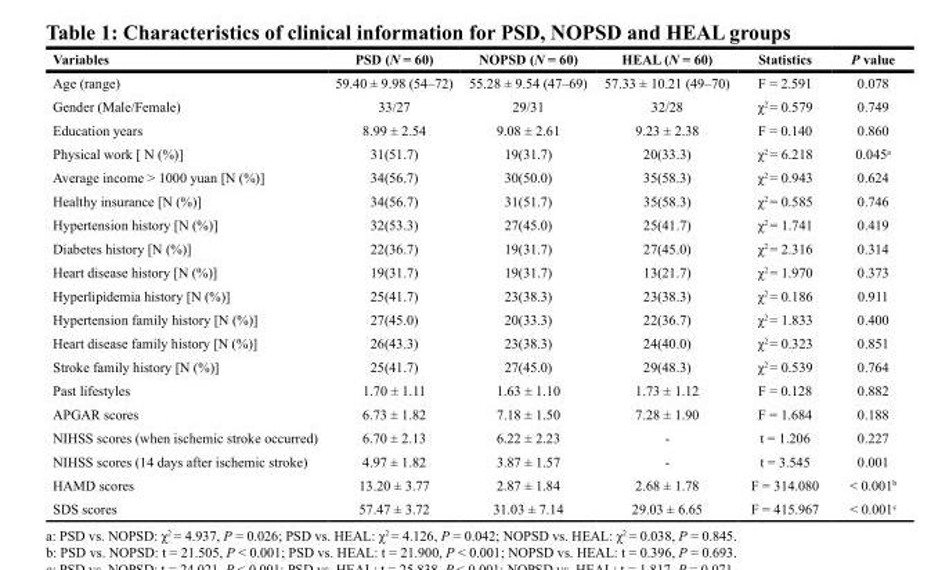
<table><thead><tr><td>Variables</td><td>PSD (N = 60)</td><td>NOPSD (N = 60)</td><td>HEAL (N = 60)</td><td>Statistics</td><td>P value</td></tr></thead><tbody><tr><td>Age (range)</td><td>59.40 ± 9.98 (54–72)</td><td>55.28 ± 9.54 (47–69)</td><td>57.33 ± 10.21 (49–70)</td><td>F = 2.591</td><td>0.078</td></tr><tr><td>Gender (Male/Female)</td><td>33/27</td><td>29/31</td><td>32/28</td><td>χ<sup>2</sup> = 0.579</td><td>0.749</td></tr><tr><td>Education years</td><td>8.99 ± 2.54</td><td>9.08 ± 2.61</td><td>9.23 ± 2.38</td><td>F = 0.140</td><td>0.860</td></tr><tr><td>Physical work [ N (%)]</td><td>31(51.7)</td><td>19(31.7)</td><td>20(33.3)</td><td>χ<sup>2</sup> = 6.218</td><td>0.045<sup>a</sup></td></tr><tr><td>Average income &gt; 1000 yuan [N (%)]</td><td>34(56.7)</td><td>30(50.0)</td><td>35(58.3)</td><td>χ<sup>2</sup> = 0.943</td><td>0.624</td></tr><tr><td>Healthy insurance [N (%)]</td><td>34(56.7)</td><td>31(51.7)</td><td>35(58.3)</td><td>χ<sup>2</sup> = 0.585</td><td>0.746</td></tr><tr><td>Hypertension history [N (%)]</td><td>32(53.3)</td><td>27(45.0)</td><td>25(41.7)</td><td>χ<sup>2</sup> = 1.741</td><td>0.419</td></tr><tr><td>Diabetes history [N (%)]</td><td>22(36.7)</td><td>19(31.7)</td><td>27(45.0)</td><td>χ<sup>2</sup> = 2.316</td><td>0.314</td></tr><tr><td>Heart disease history [N (%)]</td><td>19(31.7)</td><td>19(31.7)</td><td>13(21.7)</td><td>χ<sup>2</sup> = 1.970</td><td>0.373</td></tr><tr><td>Hyperlipidemia history [N (%)]</td><td>25(41.7)</td><td>23(38.3)</td><td>23(38.3)</td><td>χ<sup>2</sup> = 0.186</td><td>0.911</td></tr><tr><td>Hypertension family history [N (%)]</td><td>27(45.0)</td><td>20(33.3)</td><td>22(36.7)</td><td>χ<sup>2</sup> = 1.833</td><td>0.400</td></tr><tr><td>Heart disease family history [N (%)]</td><td>26(43.3)</td><td>23(38.3)</td><td>24(40.0)</td><td>χ<sup>2</sup> = 0.323</td><td>0.851</td></tr><tr><td>Stroke family history [N (%)]</td><td>25(41.7)</td><td>27(45.0)</td><td>29(48.3)</td><td>χ<sup>2</sup> = 0.539</td><td>0.764</td></tr><tr><td>Past lifestyles</td><td>1.70 ± 1.11</td><td>1.63 ± 1.10</td><td>1.73 ± 1.12</td><td>F = 0.128</td><td>0.882</td></tr><tr><td>APGAR scores</td><td>6.73 ± 1.82</td><td>7.18 ± 1.50</td><td>7.28 ± 1.90</td><td>F = 1.684</td><td>0.188</td></tr><tr><td>NIHSS scores (when ischemic stroke occurred)</td><td>6.70 ± 2.13</td><td>6.22 ± 2.23</td><td>-</td><td>t = 1.206</td><td>0.227</td></tr><tr><td>NIHSS scores (14 days after ischemic stroke)</td><td>4.97 ± 1.82</td><td>3.87 ± 1.57</td><td>-</td><td>t = 3.545</td><td>0.001</td></tr><tr><td>HAMD scores</td><td>13.20 ± 3.77</td><td>2.87 ± 1.84</td><td>2.68 ± 1.78</td><td>F = 314.080</td><td>&lt; 0.001<sup>b</sup></td></tr><tr><td>SDS scores</td><td>57.47 ± 3.72</td><td>31.03 ± 7.14</td><td>29.03 ± 6.65</td><td>F = 415.967</td><td>&lt; 0.001<sup>c</sup></td></tr></tbody></table>